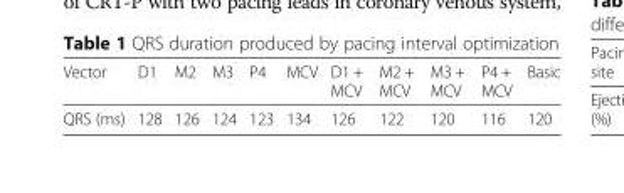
<table><thead><tr><td>Vector</td><td>D1</td><td>M2</td><td>M3</td><td>P4</td><td>MCV</td><td>D1 + MCV</td><td>M2 + MCV</td><td>M3 + MCV</td><td>P4 + MCV</td><td>Basic</td></tr></thead><tbody><tr><td>QRS (ms)</td><td>128</td><td>126</td><td>124</td><td>123</td><td>134</td><td>126</td><td>122</td><td>120</td><td>116</td><td>120</td></tr></tbody></table>